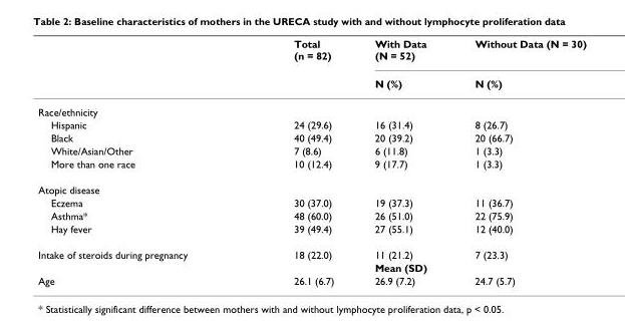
<table><thead><tr><td rowspan="2"></td><td rowspan="2">Total (n = 82)</td><td rowspan="2">With Data (N = 52) N (%)</td><td rowspan="2">Without Data (N = 30) N (%)</td></tr><tr></tr></thead><tbody><tr><td colspan="4">Race/ethnicity</td></tr><tr><td>Hispanic</td><td>24 (29.6)</td><td>16 (31.4)</td><td>8 (26.7)</td></tr><tr><td>Black</td><td>40 (49.4)</td><td>20 (39.2)</td><td>20 (66.7)</td></tr><tr><td>White/Asian/Other</td><td>7 (8.6)</td><td>6 (11.8)</td><td>1 (3.3)</td></tr><tr><td>More than one race</td><td>10 (12.4)</td><td>9 (17.7)</td><td>1 (3.3)</td></tr><tr><td colspan="4">Atopic disease</td></tr><tr><td>Eczema</td><td>30 (37.0)</td><td>19 (37.3)</td><td>11 (36.7)</td></tr><tr><td>Asthma*</td><td>48 (60.0)</td><td>26 (51.0)</td><td>22 (75.9)</td></tr><tr><td>Hay fever</td><td>39 (49.4)</td><td>27 (55.1)</td><td>12 (40.0)</td></tr><tr><td rowspan="2">Intake of steroids during pregnancy</td><td>18 (22.0)</td><td>11 (21.2)</td><td>7 (23.3)</td></tr><tr><td></td><td>Mean (SD)</td><td></td></tr><tr><td>Age</td><td>26.1 (6.7)</td><td>26.9 (7.2)</td><td>24.7 (5.7)</td></tr></tbody></table>